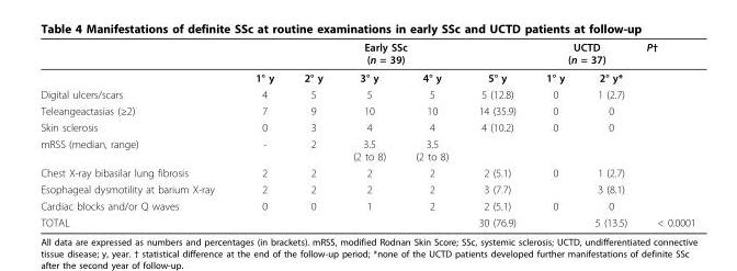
<table><thead><tr><td rowspan="2"></td><td colspan="5">Early SSc (n = 39)</td><td colspan="2">UCTD (n = 37)</td><td rowspan="2">P†</td></tr><tr><td>1° y</td><td>2° y</td><td>3° y</td><td>4° y</td><td>5° y</td><td>1° y</td><td>2° y*</td></tr></thead><tbody><tr><td>Digital ulcers/scars</td><td>4</td><td>5</td><td>5</td><td>5</td><td>5 (12.8)</td><td>0</td><td>1 (2.7)</td><td></td></tr><tr><td>Teleangeactasias (≥2)</td><td>7</td><td>9</td><td>10</td><td>10</td><td>14 (35.9)</td><td>0</td><td>0</td><td></td></tr><tr><td>Skin sclerosis</td><td>0</td><td>3</td><td>4</td><td>4</td><td>4 (10.2)</td><td>0</td><td>0</td><td></td></tr><tr><td>mRSS (median, range)</td><td>-</td><td>2</td><td>3.5 (2 to 8)</td><td>3.5 (2 to 8)</td><td></td><td></td><td></td><td></td></tr><tr><td>Chest X-ray bibasilar lung fibrosis</td><td>2</td><td>2</td><td>2</td><td>2</td><td>2 (5.1)</td><td>0</td><td>1 (2.7)</td><td></td></tr><tr><td>Esophageal dysmotility at barium X-ray</td><td>2</td><td>2</td><td>2</td><td>2</td><td>3 (7.7)</td><td></td><td>3 (8.1)</td><td></td></tr><tr><td>Cardiac blocks and/or Q waves</td><td>0</td><td>0</td><td>1</td><td>2</td><td>2 (5.1)</td><td>0</td><td>0</td><td></td></tr><tr><td>TOTAL</td><td></td><td></td><td></td><td></td><td>30 (76.9)</td><td></td><td>5 (13.5)</td><td>&lt; 0.0001</td></tr></tbody></table>